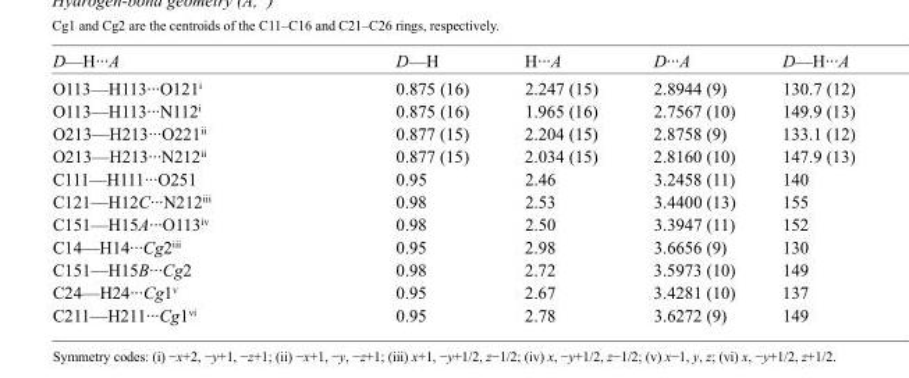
<table><tbody><tr><td>D—H···A</td><td>D—H</td><td>H···A</td><td>D···A</td><td>D—H···A</td></tr><tr><td>O113—H113···O121<sup>i</sup></td><td>0.875 (16)</td><td>2.247 (15)</td><td>2.8944 (9)</td><td>130.7 (12)</td></tr><tr><td>O113—H113···N112<sup>i</sup></td><td>0.875 (16)</td><td>1.965 (16)</td><td>2.7567 (10)</td><td>149.9 (13)</td></tr><tr><td>O213—H213···O221<sup>ii</sup></td><td>0.877 (15)</td><td>2.204 (15)</td><td>2.8758 (9)</td><td>133.1 (12)</td></tr><tr><td>O213—H213···N212<sup>ii</sup></td><td>0.877 (15)</td><td>2.034 (15)</td><td>2.8160 (10)</td><td>147.9 (13)</td></tr><tr><td>C111—H111···O251</td><td>0.95</td><td>2.46</td><td>3.2458 (11)</td><td>140</td></tr><tr><td>C121—H12C···N212<sup>iii</sup></td><td>0.98</td><td>2.53</td><td>3.4400 (13)</td><td>155</td></tr><tr><td>C151—H15A···O113<sup>iv</sup></td><td>0.98</td><td>2.50</td><td>3.3947 (11)</td><td>152</td></tr><tr><td>C14—H14···Cg2<sup>iii</sup></td><td>0.95</td><td>2.98</td><td>3.6656 (9)</td><td>130</td></tr><tr><td>C151—H15B···Cg2</td><td>0.98</td><td>2.72</td><td>3.5973 (10)</td><td>149</td></tr><tr><td>C24—H24···Cg1<sup>v</sup></td><td>0.95</td><td>2.67</td><td>3.4281 (10)</td><td>137</td></tr><tr><td>C211—H211···Cg1<sup>vi</sup></td><td>0.95</td><td>2.78</td><td>3.6272 (9)</td><td>149</td></tr></tbody></table>